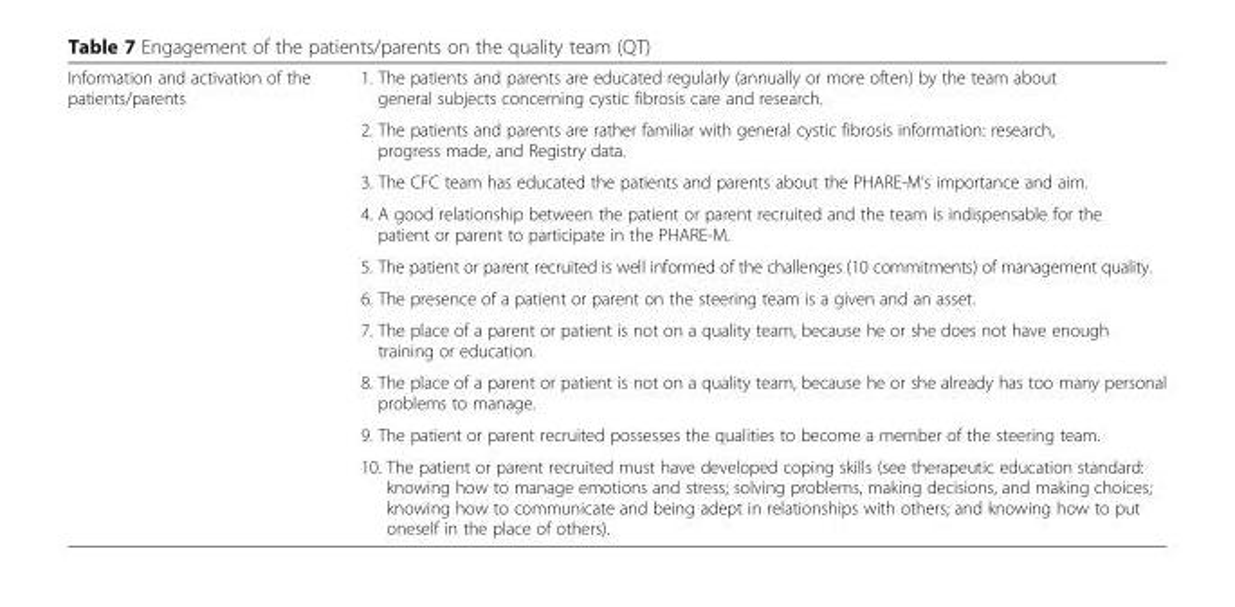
<table><tbody><tr><td rowspan="10">Information and activation of the patients/parents</td><td>1. The patients and parents are educated regularly (annually or more often) by the team about general subjects concerning cystic fibrosis care and research.</td></tr><tr><td>2. The patients and parents are rather familiar with general cystic fibrosis information: research, progress made, and Registry data.</td></tr><tr><td>3. The CFC team has educated the patients and parents about the PHARE-M’s importance and aim.</td></tr><tr><td>4. A good relationship between the patient or parent recruited and the team is indispensable for the patient or parent to participate in the PHARE-M.</td></tr><tr><td>5. The patient or parent recruited is well informed of the challenges (10 commitments) of management quality.</td></tr><tr><td>6. The presence of a patient or parent on the steering team is a given and an asset.</td></tr><tr><td>7. The place of a parent or patient is not on a quality team, because he or she does not have enough training or education.</td></tr><tr><td>8. The place of a parent or patient is not on a quality team, because he or she already has too many personal problems to manage.</td></tr><tr><td>9. The patient or parent recruited possesses the qualities to become a member of the steering team.</td></tr><tr><td>10. The patient or parent recruited must have developed coping skills (see therapeutic education standard: knowing how to manage emotions and stress; solving problems, making decisions, and making choices; knowing how to communicate and being adept in relationships with others; and knowing how to put oneself in the place of others).</td></tr></tbody></table>